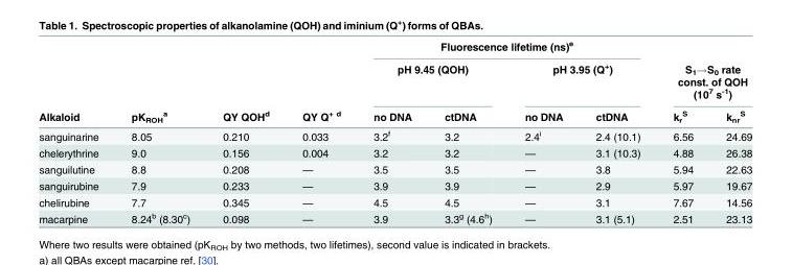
<table><thead><tr><td rowspan="3">Alkaloid</td><td rowspan="3">pK<sub>ROH</sub> <sup>a</sup></td><td rowspan="3">QY QOH<sup>d</sup></td><td rowspan="3">QY Q<sup>+ d</sup></td><td colspan="4">Fluorescence lifetime (ns)<sup>e</sup></td><td></td><td></td></tr><tr><td colspan="2">pH 9.45 (QOH)</td><td colspan="2">pH 3.95 (Q<sup>+</sup>)</td><td colspan="2">S<sub>1</sub>→S<sub>0</sub> rate const. of QOH (10<sup>7</sup> s<sup>-1</sup>)</td></tr><tr><td>no DNA</td><td>ctDNA</td><td>no DNA</td><td>ctDNA</td><td>k<sub>r</sub> <sup>S</sup></td><td>k<sub>nr</sub> <sup>S</sup></td></tr></thead><tbody><tr><td>sanguinarine</td><td>8.05</td><td>0.210</td><td>0.033</td><td>3.2<sup>f</sup></td><td>3.2</td><td>2.4<sup>i</sup></td><td>2.4 (10.1)</td><td>6.56</td><td>24.69</td></tr><tr><td>chelerythrine</td><td>9.0</td><td>0.156</td><td>0.004</td><td>3.2</td><td>3.2</td><td>—</td><td>3.1 (10.3)</td><td>4.88</td><td>26.38</td></tr><tr><td>sanguilutine</td><td>8.8</td><td>0.208</td><td>—</td><td>3.5</td><td>3.5</td><td>—</td><td>3.8</td><td>5.94</td><td>22.63</td></tr><tr><td>sanguirubine</td><td>7.9</td><td>0.233</td><td>—</td><td>3.9</td><td>3.9</td><td>—</td><td>2.9</td><td>5.97</td><td>19.67</td></tr><tr><td>chelirubine</td><td>7.7</td><td>0.345</td><td>—</td><td>4.5</td><td>4.5</td><td>—</td><td>3.1</td><td>7.67</td><td>14.56</td></tr><tr><td>macarpine</td><td>8.24<sup>b</sup> (8.30<sup>c</sup>)</td><td>0.098</td><td>—</td><td>3.9</td><td>3.3<sup>g</sup> (4.6<sup>h</sup>)</td><td>—</td><td>3.1 (5.1)</td><td>2.51</td><td>23.13</td></tr></tbody></table>